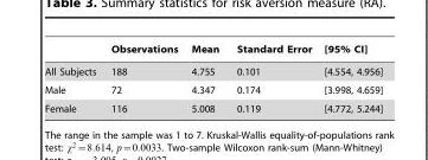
<table><thead><tr><td></td><td>Observations</td><td>Mean</td><td>Standard Error</td><td>[95% CI]</td></tr></thead><tbody><tr><td>All Subjects</td><td>188</td><td>4.755</td><td>0.101</td><td>[4.554, 4.956]</td></tr><tr><td>Male</td><td>72</td><td>4.347</td><td>0.174</td><td>[3.998, 4.659]</td></tr><tr><td>Female</td><td>116</td><td>5.008</td><td>0.119</td><td>[4.772, 5.244]</td></tr></tbody></table>